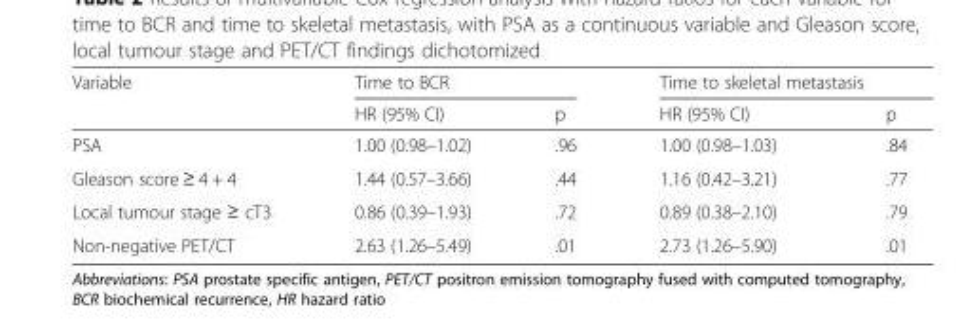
<table><thead><tr><td rowspan="2">Variable</td><td colspan="2">Time to BCR</td><td colspan="2">Time to skeletal metastasis</td></tr><tr><td>HR (95% CI)</td><td>p</td><td>HR (95% CI)</td><td>p</td></tr></thead><tbody><tr><td>PSA</td><td>1.00 (0.98–1.02)</td><td>.96</td><td>1.00 (0.98–1.03)</td><td>.84</td></tr><tr><td>Gleason score ≥ 4 + 4</td><td>1.44 (0.57–3.66)</td><td>.44</td><td>1.16 (0.42–3.21)</td><td>.77</td></tr><tr><td>Local tumour stage ≥ cT3</td><td>0.86 (0.39–1.93)</td><td>.72</td><td>0.89 (0.38–2.10)</td><td>.79</td></tr><tr><td>Non-negative PET/CT</td><td>2.63 (1.26–5.49)</td><td>.01</td><td>2.73 (1.26–5.90)</td><td>.01</td></tr></tbody></table>